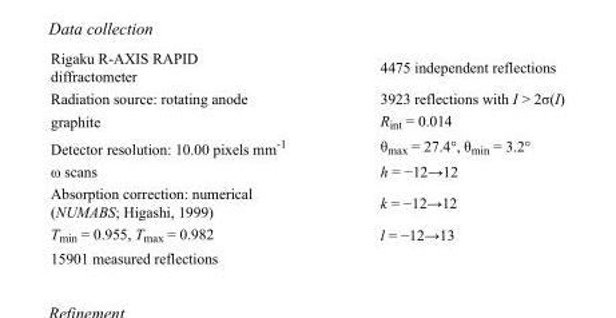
<table><tbody><tr><td>Rigaku R-AXIS RAPID diffractometer</td><td>4475 independent reflections</td></tr><tr><td>Radiation source: rotating anode</td><td>3923 reflections with I &gt; 2σ(I)</td></tr><tr><td>graphite</td><td>R<sub>int</sub> = 0.014</td></tr><tr><td>Detector resolution: 10.00 pixels mm<sup>-1</sup></td><td>θ<sub>max</sub> = 27.4°, θ<sub>min</sub> = 3.2°</td></tr><tr><td>ω scans</td><td>h = −12→12</td></tr><tr><td>Absorption correction: numerical (NUMABS; Higashi, 1999)</td><td>k = −12→12</td></tr><tr><td>T<sub>min</sub> = 0.955, T<sub>max</sub> = 0.982</td><td>l = −12→13</td></tr><tr><td>15901 measured reflections</td><td></td></tr></tbody></table>